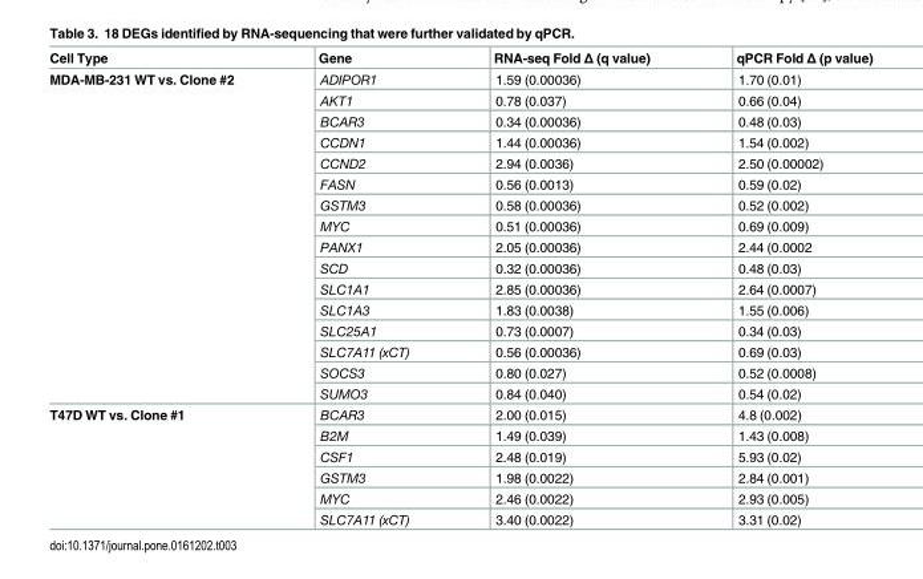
<table><thead><tr><td>Cell Type</td><td>Gene</td><td>RNA-seq Fold Δ (q value)</td><td>qPCR Fold Δ (p value)</td></tr></thead><tbody><tr><td rowspan="16">MDA-MB-231 WT vs. Clone #2</td><td>ADIPOR1</td><td>1.59 (0.00036)</td><td>1.70 (0.01)</td></tr><tr><td>AKT1</td><td>0.78 (0.037)</td><td>0.66 (0.04)</td></tr><tr><td>BCAR3</td><td>0.34 (0.00036)</td><td>0.48 (0.03)</td></tr><tr><td>CCDN1</td><td>1.44 (0.00036)</td><td>1.54 (0.002)</td></tr><tr><td>CCND2</td><td>2.94 (0.0036)</td><td>2.50 (0.00002)</td></tr><tr><td>FASN</td><td>0.56 (0.0013)</td><td>0.59 (0.02)</td></tr><tr><td>GSTM3</td><td>0.58 (0.00036)</td><td>0.52 (0.002)</td></tr><tr><td>MYC</td><td>0.51 (0.00036)</td><td>0.69 (0.009)</td></tr><tr><td>PANX1</td><td>2.05 (0.00036)</td><td>2.44 (0.0002</td></tr><tr><td>SCD</td><td>0.32 (0.00036)</td><td>0.48 (0.03)</td></tr><tr><td>SLC1A1</td><td>2.85 (0.00036)</td><td>2.64 (0.0007)</td></tr><tr><td>SLC1A3</td><td>1.83 (0.0038)</td><td>1.55 (0.006)</td></tr><tr><td>SLC25A1</td><td>0.73 (0.0007)</td><td>0.34 (0.03)</td></tr><tr><td>SLC7A11 (xCT)</td><td>0.56 (0.00036)</td><td>0.69 (0.03)</td></tr><tr><td>SOCS3</td><td>0.80 (0.027)</td><td>0.52 (0.0008)</td></tr><tr><td>SUMO3</td><td>0.84 (0.040)</td><td>0.54 (0.02)</td></tr><tr><td rowspan="6">T47D WT vs. Clone #1</td><td>BCAR3</td><td>2.00 (0.015)</td><td>4.8 (0.002)</td></tr><tr><td>B2M</td><td>1.49 (0.039)</td><td>1.43 (0.008)</td></tr><tr><td>CSF1</td><td>2.48 (0.019)</td><td>5.93 (0.02)</td></tr><tr><td>GSTM3</td><td>1.98 (0.0022)</td><td>2.84 (0.001)</td></tr><tr><td>MYC</td><td>2.46 (0.0022)</td><td>2.93 (0.005)</td></tr><tr><td>SLC7A11 (xCT)</td><td>3.40 (0.0022)</td><td>3.31 (0.02)</td></tr></tbody></table>